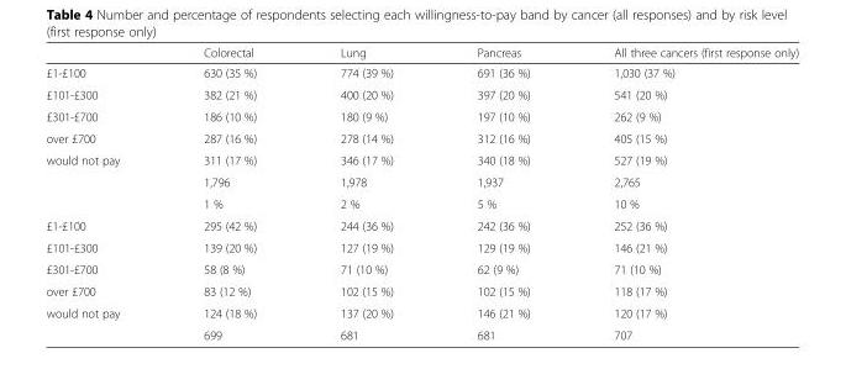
<table><thead><tr><td></td><td>Colorectal</td><td>Lung</td><td>Pancreas</td><td>All three cancers (first response only)</td></tr></thead><tbody><tr><td>£1-£100</td><td>630 (35 %)</td><td>774 (39 %)</td><td>691 (36 %)</td><td>1,030 (37 %)</td></tr><tr><td>£101-£300</td><td>382 (21 %)</td><td>400 (20 %)</td><td>397 (20 %)</td><td>541 (20 %)</td></tr><tr><td>£301-£700</td><td>186 (10 %)</td><td>180 (9 %)</td><td>197 (10 %)</td><td>262 (9 %)</td></tr><tr><td>over £700</td><td>287 (16 %)</td><td>278 (14 %)</td><td>312 (16 %)</td><td>405 (15 %)</td></tr><tr><td rowspan="3">would not pay</td><td>311 (17 %)</td><td>346 (17 %)</td><td>340 (18 %)</td><td>527 (19 %)</td></tr><tr><td>1,796</td><td>1,978</td><td>1,937</td><td>2,765</td></tr><tr><td>1 %</td><td>2 %</td><td>5 %</td><td>10 %</td></tr><tr><td>£1-£100</td><td>295 (42 %)</td><td>244 (36 %)</td><td>242 (36 %)</td><td>252 (36 %)</td></tr><tr><td>£101-£300</td><td>139 (20 %)</td><td>127 (19 %)</td><td>129 (19 %)</td><td>146 (21 %)</td></tr><tr><td>£301-£700</td><td>58 (8 %)</td><td>71 (10 %)</td><td>62 (9 %)</td><td>71 (10 %)</td></tr><tr><td>over £700</td><td>83 (12 %)</td><td>102 (15 %)</td><td>102 (15 %)</td><td>118 (17 %)</td></tr><tr><td rowspan="2">would not pay</td><td>124 (18 %)</td><td>137 (20 %)</td><td>146 (21 %)</td><td>120 (17 %)</td></tr><tr><td>699</td><td>681</td><td>681</td><td>707</td></tr></tbody></table>